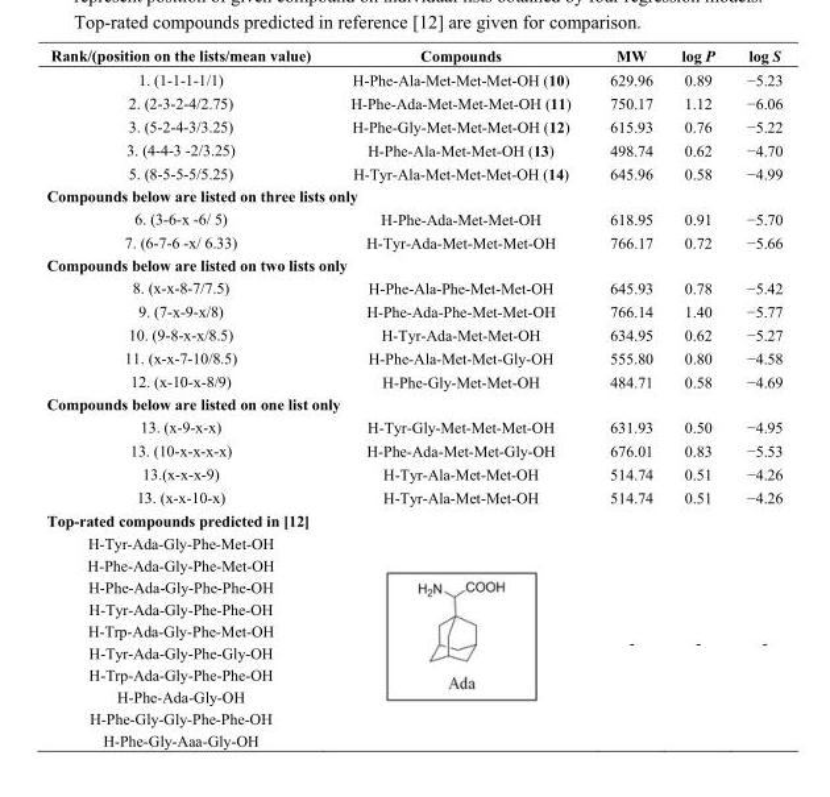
<table><thead><tr><td>Rank/(position on the lists/mean value)</td><td>Compounds</td><td>MW</td><td>log P</td><td>log S</td></tr></thead><tbody><tr><td>1. (1-1-1-1/1)</td><td>H-Phe-Ala-Met-Met-Met-OH (10)</td><td>629.96</td><td>0.89</td><td>−5.23</td></tr><tr><td>2. (2-3-2-4/2.75)</td><td>H-Phe-Ada-Met-Met-Met-OH (11)</td><td>750.17</td><td>1.12</td><td>−6.06</td></tr><tr><td>3. (5-2-4-3/3.25)</td><td>H-Phe-Gly-Met-Met-Met-OH (12)</td><td>615.93</td><td>0.76</td><td>−5.22</td></tr><tr><td>3. (4-4-3 -2/3.25)</td><td>H-Phe-Ala-Met-Met-OH (13)</td><td>498.74</td><td>0.62</td><td>−4.70</td></tr><tr><td>5. (8-5-5-5/5.25)</td><td>H-Tyr-Ala-Met-Met-Met-OH (14)</td><td>645.96</td><td>0.58</td><td>−4.99</td></tr><tr><td colspan="5">Compounds below are listed on three lists only</td></tr><tr><td>6. (3-6-x -6/ 5)</td><td>H-Phe-Ada-Met-Met-OH</td><td>618.95</td><td>0.91</td><td>−5.70</td></tr><tr><td>7. (6-7-6 -x/ 6.33)</td><td>H-Tyr-Ada-Met-Met-Met-OH</td><td>766.17</td><td>0.72</td><td>−5.66</td></tr><tr><td colspan="5">Compounds below are listed on two lists only</td></tr><tr><td>8. (x-x-8-7/7.5)</td><td>H-Phe-Ala-Phe-Met-Met-OH</td><td>645.93</td><td>0.78</td><td>−5.42</td></tr><tr><td>9. (7-x-9-x/8)</td><td>H-Phe-Ada-Phe-Met-Met-OH</td><td>766.14</td><td>1.40</td><td>−5.77</td></tr><tr><td>10. (9-8-x-x/8.5)</td><td>H-Tyr-Ada-Met-Met-OH</td><td>634.95</td><td>0.62</td><td>−5.27</td></tr><tr><td>11. (x-x-7-10/8.5)</td><td>H-Phe-Ala-Met-Met-Gly-OH</td><td>555.80</td><td>0.80</td><td>−4.58</td></tr><tr><td>12. (x-10-x-8/9)</td><td>H-Phe-Gly-Met-Met-OH</td><td>484.71</td><td>0.58</td><td>−4.69</td></tr><tr><td colspan="5">Compounds below are listed on one list only</td></tr><tr><td>13. (x-9-x-x)</td><td>H-Tyr-Gly-Met-Met-Met-OH</td><td>631.93</td><td>0.50</td><td>−4.95</td></tr><tr><td>13. (10-x-x-x-x)</td><td>H-Phe-Ada-Met-Met-Gly-OH</td><td>676.01</td><td>0.83</td><td>−5.53</td></tr><tr><td>13.(x-x-x-9)</td><td>H-Tyr-Ala-Met-Met-OH</td><td>514.74</td><td>0.51</td><td>−4.26</td></tr><tr><td>13. (x-x-10-x)</td><td>H-Tyr-Ala-Met-Met-OH</td><td>514.74</td><td>0.51</td><td>−4.26</td></tr><tr><td colspan="5">Top-rated compounds predicted in [12]</td></tr><tr><td>H-Tyr-Ada-Gly-Phe-Met-OH</td><td rowspan="10"></td><td rowspan="10">-</td><td rowspan="10">-</td><td rowspan="10">-</td></tr><tr><td>H-Phe-Ada-Gly-Phe-Met-OH</td></tr><tr><td>H-Phe-Ada-Gly-Phe-Phe-OH</td></tr><tr><td>H-Tyr-Ada-Gly-Phe-Phe-OH</td></tr><tr><td>H-Trp-Ada-Gly-Phe-Met-OH</td></tr><tr><td>H-Tyr-Ada-Gly-Phe-Gly-OH</td></tr><tr><td>H-Trp-Ada-Gly-Phe-Phe-OH</td></tr><tr><td>H-Phe-Ada-Gly-OH</td></tr><tr><td>H-Phe-Gly-Gly-Phe-Phe-OH</td></tr><tr><td>H-Phe-Gly-Aaa-Gly-OH</td></tr></tbody></table>